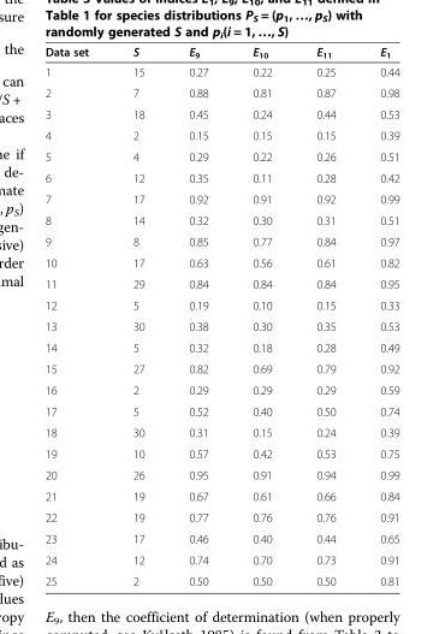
<table><thead><tr><td>Data set</td><td>S</td><td>E<sub>9</sub></td><td>E<sub>10</sub></td><td>E<sub>11</sub></td><td>E<sub>1</sub></td></tr></thead><tbody><tr><td>1</td><td>15</td><td>0.27</td><td>0.22</td><td>0.25</td><td>0.44</td></tr><tr><td>2</td><td>7</td><td>0.88</td><td>0.81</td><td>0.87</td><td>0.98</td></tr><tr><td>3</td><td>18</td><td>0.45</td><td>0.24</td><td>0.44</td><td>0.53</td></tr><tr><td>4</td><td>2</td><td>0.15</td><td>0.15</td><td>0.15</td><td>0.39</td></tr><tr><td>5</td><td>4</td><td>0.29</td><td>0.22</td><td>0.26</td><td>0.51</td></tr><tr><td>6</td><td>12</td><td>0.35</td><td>0.11</td><td>0.28</td><td>0.42</td></tr><tr><td>7</td><td>17</td><td>0.92</td><td>0.91</td><td>0.92</td><td>0.99</td></tr><tr><td>8</td><td>14</td><td>0.32</td><td>0.30</td><td>0.31</td><td>0.51</td></tr><tr><td>9</td><td>8</td><td>0.85</td><td>0.77</td><td>0.84</td><td>0.97</td></tr><tr><td>10</td><td>17</td><td>0.63</td><td>0.56</td><td>0.61</td><td>0.82</td></tr><tr><td>11</td><td>29</td><td>0.84</td><td>0.84</td><td>0.84</td><td>0.95</td></tr><tr><td>12</td><td>5</td><td>0.19</td><td>0.10</td><td>0.15</td><td>0.33</td></tr><tr><td>13</td><td>30</td><td>0.38</td><td>0.30</td><td>0.35</td><td>0.53</td></tr><tr><td>14</td><td>5</td><td>0.32</td><td>0.18</td><td>0.28</td><td>0.49</td></tr><tr><td>15</td><td>27</td><td>0.82</td><td>0.69</td><td>0.79</td><td>0.92</td></tr><tr><td>16</td><td>2</td><td>0.29</td><td>0.29</td><td>0.29</td><td>0.59</td></tr><tr><td>17</td><td>5</td><td>0.52</td><td>0.40</td><td>0.50</td><td>0.74</td></tr><tr><td>18</td><td>30</td><td>0.31</td><td>0.15</td><td>0.24</td><td>0.39</td></tr><tr><td>19</td><td>10</td><td>0.57</td><td>0.42</td><td>0.53</td><td>0.75</td></tr><tr><td>20</td><td>26</td><td>0.95</td><td>0.91</td><td>0.94</td><td>0.99</td></tr><tr><td>21</td><td>19</td><td>0.67</td><td>0.61</td><td>0.66</td><td>0.84</td></tr><tr><td>22</td><td>19</td><td>0.77</td><td>0.76</td><td>0.76</td><td>0.91</td></tr><tr><td>23</td><td>17</td><td>0.46</td><td>0.40</td><td>0.44</td><td>0.65</td></tr><tr><td>24</td><td>12</td><td>0.74</td><td>0.70</td><td>0.73</td><td>0.91</td></tr><tr><td>25</td><td>2</td><td>0.50</td><td>0.50</td><td>0.50</td><td>0.81</td></tr></tbody></table>